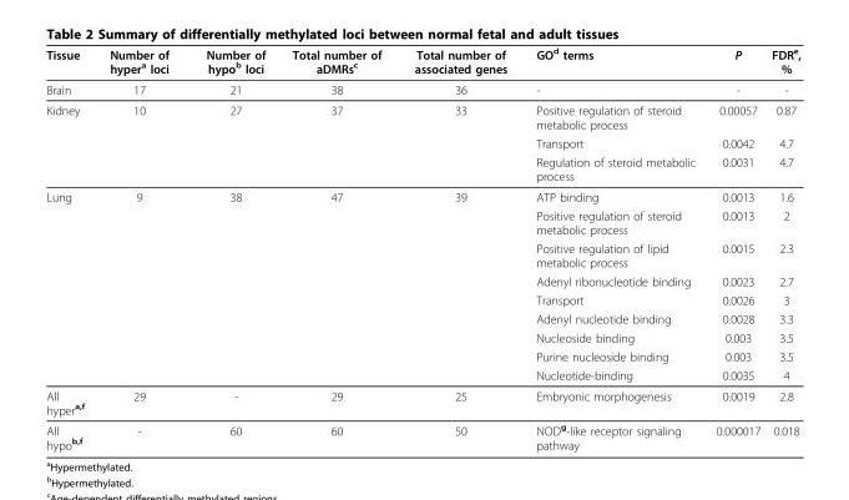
<table><thead><tr><td>Tissue</td><td>Number of hyper<sup>a</sup> loci</td><td>Number of hypo<sup>b</sup> loci</td><td>Total number of aDMRs<sup>c</sup></td><td>Total number of associated genes</td><td>GO<sup>d</sup> terms</td><td>P</td><td>FDR<sup>e</sup>, %</td></tr></thead><tbody><tr><td>Brain</td><td>17</td><td>21</td><td>38</td><td>36</td><td>-</td><td>-</td><td>-</td></tr><tr><td rowspan="3">Kidney</td><td>10</td><td>27</td><td>37</td><td>33</td><td>Positive regulation of steroid metabolic process</td><td>0.00057</td><td>0.87</td></tr><tr><td></td><td></td><td></td><td></td><td>Transport</td><td>0.0042</td><td>4.7</td></tr><tr><td></td><td></td><td></td><td></td><td>Regulation of steroid metabolic process</td><td>0.0031</td><td>4.7</td></tr><tr><td rowspan="9">Lung</td><td>9</td><td>38</td><td>47</td><td>39</td><td>ATP binding</td><td>0.0013</td><td>1.6</td></tr><tr><td></td><td></td><td></td><td></td><td>Positive regulation of steroid metabolic process</td><td>0.0013</td><td>2</td></tr><tr><td></td><td></td><td></td><td></td><td>Positive regulation of lipid metabolic process</td><td>0.0015</td><td>2.3</td></tr><tr><td></td><td></td><td></td><td></td><td>Adenyl ribonucleotide binding</td><td>0.0023</td><td>2.7</td></tr><tr><td></td><td></td><td></td><td></td><td>Transport</td><td>0.0026</td><td>3</td></tr><tr><td></td><td></td><td></td><td></td><td>Adenyl nucleotide binding</td><td>0.0028</td><td>3.3</td></tr><tr><td></td><td></td><td></td><td></td><td>Nucleoside binding</td><td>0.003</td><td>3.5</td></tr><tr><td></td><td></td><td></td><td></td><td>Purine nucleoside binding</td><td>0.003</td><td>3.5</td></tr><tr><td></td><td></td><td></td><td></td><td>Nucleotide-binding</td><td>0.0035</td><td>4</td></tr><tr><td>All hyper<sup>a,f</sup></td><td>29</td><td>-</td><td>29</td><td>25</td><td>Embryonic morphogenesis</td><td>0.0019</td><td>2.8</td></tr><tr><td>All hypo<sup>b,f</sup></td><td>-</td><td>60</td><td>60</td><td>50</td><td>NOD<sup>g</sup>-like receptor signaling pathway</td><td>0.000017</td><td>0.018</td></tr></tbody></table>